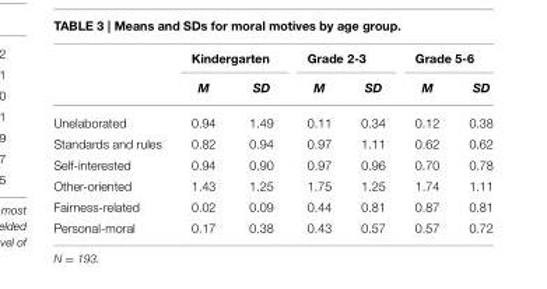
<table><thead><tr><td rowspan="2"></td><td colspan="2">Kindergarten</td><td colspan="2">Grade 2-3</td><td colspan="2">Grade 5-6</td></tr><tr><td>M</td><td>SD</td><td>M</td><td>SD</td><td>M</td><td>SD</td></tr></thead><tbody><tr><td>Unelaborated</td><td>0.94</td><td>1.49</td><td>0.11</td><td>0.34</td><td>0.12</td><td>0.38</td></tr><tr><td>Standards and rules</td><td>0.82</td><td>0.94</td><td>0.97</td><td>1.11</td><td>0.62</td><td>0.62</td></tr><tr><td>Self-interested</td><td>0.94</td><td>0.90</td><td>0.97</td><td>0.96</td><td>0.70</td><td>0.78</td></tr><tr><td>Other-oriented</td><td>1.43</td><td>1.25</td><td>1.75</td><td>1.25</td><td>1.74</td><td>1.11</td></tr><tr><td>Fairness-related</td><td>0.02</td><td>0.09</td><td>0.44</td><td>0.81</td><td>0.87</td><td>0.81</td></tr><tr><td>Personal-moral</td><td>0.17</td><td>0.38</td><td>0.43</td><td>0.57</td><td>0.57</td><td>0.72</td></tr></tbody></table>